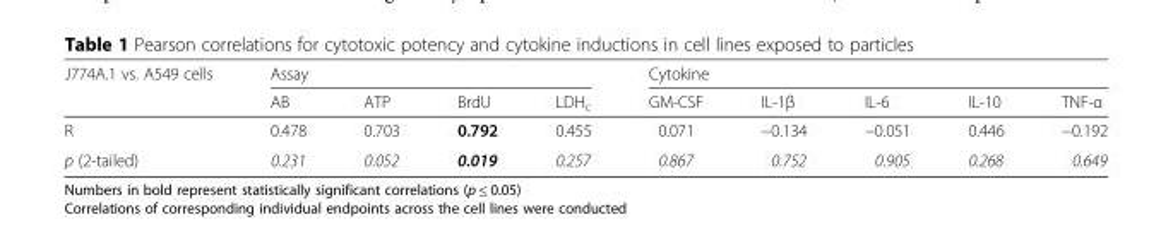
<table><thead><tr><td rowspan="2">J774A.1 vs. A549 cells</td><td colspan="4">Assay</td><td colspan="5">Cytokine</td></tr><tr><td>AB</td><td>ATP</td><td>BrdU</td><td>LDH<sub>c</sub></td><td>GM-CSF</td><td>IL-1β</td><td>IL-6</td><td>IL-10</td><td>TNF-α</td></tr></thead><tbody><tr><td>R</td><td>0.478</td><td>0.703</td><td>0.792</td><td>0.455</td><td>0.071</td><td>−0.134</td><td>−0.051</td><td>0.446</td><td>−0.192</td></tr><tr><td>p (2-tailed)</td><td>0.231</td><td>0.052</td><td>0.019</td><td>0.257</td><td>0.867</td><td>0.752</td><td>0.905</td><td>0.268</td><td>0.649</td></tr></tbody></table>